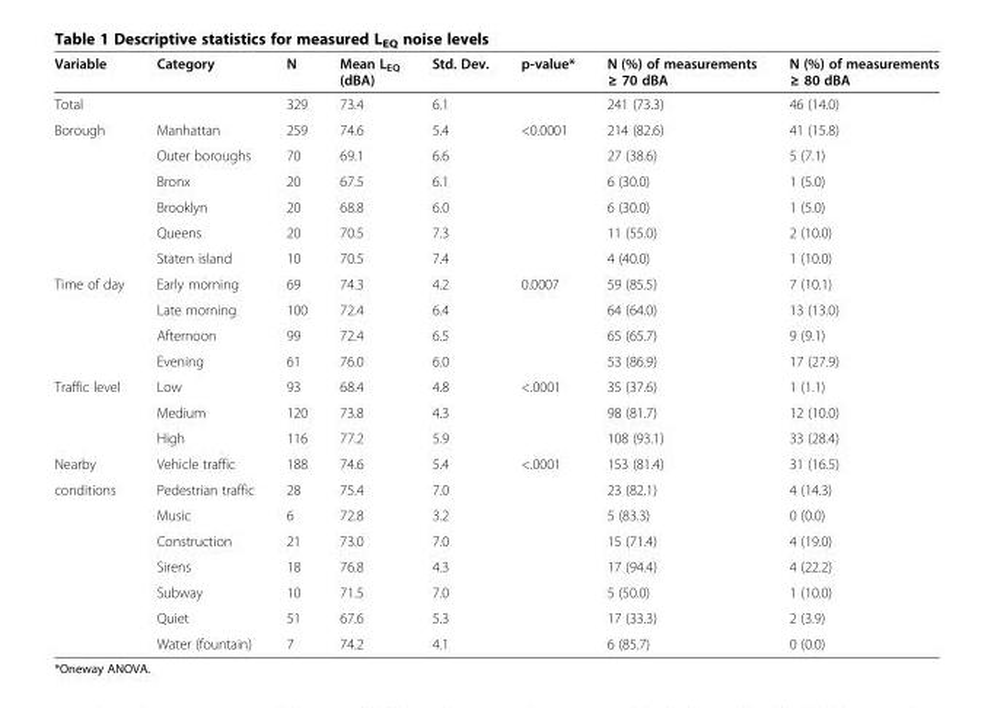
<table><thead><tr><td>Variable</td><td>Category</td><td>N</td><td>Mean L<sub>EQ</sub> (dBA)</td><td>Std. Dev.</td><td>p-value*</td><td>N (%) of measurements ≥ 70 dBA</td><td>N (%) of measurements ≥ 80 dBA</td></tr></thead><tbody><tr><td>Total</td><td></td><td>329</td><td>73.4</td><td>6.1</td><td></td><td>241 (73.3)</td><td>46 (14.0)</td></tr><tr><td rowspan="6">Borough</td><td>Manhattan</td><td>259</td><td>74.6</td><td>5.4</td><td>&lt;0.0001</td><td>214 (82.6)</td><td>41 (15.8)</td></tr><tr><td>Outer boroughs</td><td>70</td><td>69.1</td><td>6.6</td><td></td><td>27 (38.6)</td><td>5 (7.1)</td></tr><tr><td>Bronx</td><td>20</td><td>67.5</td><td>6.1</td><td></td><td>6 (30.0)</td><td>1 (5.0)</td></tr><tr><td>Brooklyn</td><td>20</td><td>68.8</td><td>6.0</td><td></td><td>6 (30.0)</td><td>1 (5.0)</td></tr><tr><td>Queens</td><td>20</td><td>70.5</td><td>7.3</td><td></td><td>11 (55.0)</td><td>2 (10.0)</td></tr><tr><td>Staten island</td><td>10</td><td>70.5</td><td>7.4</td><td></td><td>4 (40.0)</td><td>1 (10.0)</td></tr><tr><td rowspan="4">Time of day</td><td>Early morning</td><td>69</td><td>74.3</td><td>4.2</td><td>0.0007</td><td>59 (85.5)</td><td>7 (10.1)</td></tr><tr><td>Late morning</td><td>100</td><td>72.4</td><td>6.4</td><td></td><td>64 (64.0)</td><td>13 (13.0)</td></tr><tr><td>Afternoon</td><td>99</td><td>72.4</td><td>6.5</td><td></td><td>65 (65.7)</td><td>9 (9.1)</td></tr><tr><td>Evening</td><td>61</td><td>76.0</td><td>6.0</td><td></td><td>53 (86.9)</td><td>17 (27.9)</td></tr><tr><td rowspan="3">Traffic level</td><td>Low</td><td>93</td><td>68.4</td><td>4.8</td><td>&lt;.0001</td><td>35 (37.6)</td><td>1 (1.1)</td></tr><tr><td>Medium</td><td>120</td><td>73.8</td><td>4.3</td><td></td><td>98 (81.7)</td><td>12 (10.0)</td></tr><tr><td>High</td><td>116</td><td>77.2</td><td>5.9</td><td></td><td>108 (93.1)</td><td>33 (28.4)</td></tr><tr><td>Nearby</td><td>Vehicle traffic</td><td>188</td><td>74.6</td><td>5.4</td><td>&lt;.0001</td><td>153 (81.4)</td><td>31 (16.5)</td></tr><tr><td rowspan="7">conditions</td><td>Pedestrian traffic</td><td>28</td><td>75.4</td><td>7.0</td><td></td><td>23 (82.1)</td><td>4 (14.3)</td></tr><tr><td>Music</td><td>6</td><td>72.8</td><td>3.2</td><td></td><td>5 (83.3)</td><td>0 (0.0)</td></tr><tr><td>Construction</td><td>21</td><td>73.0</td><td>7.0</td><td></td><td>15 (71.4)</td><td>4 (19.0)</td></tr><tr><td>Sirens</td><td>18</td><td>76.8</td><td>4.3</td><td></td><td>17 (94.4)</td><td>4 (22.2)</td></tr><tr><td>Subway</td><td>10</td><td>71.5</td><td>7.0</td><td></td><td>5 (50.0)</td><td>1 (10.0)</td></tr><tr><td>Quiet</td><td>51</td><td>67.6</td><td>5.3</td><td></td><td>17 (33.3)</td><td>2 (3.9)</td></tr><tr><td>Water (fountain)</td><td>7</td><td>74.2</td><td>4.1</td><td></td><td>6 (85.7)</td><td>0 (0.0)</td></tr></tbody></table>